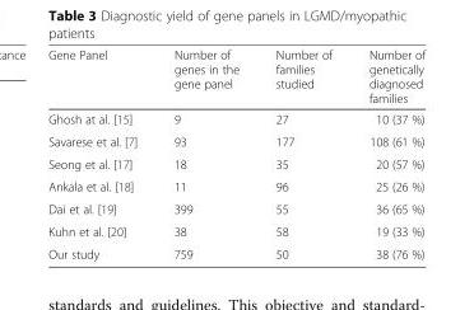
<table><thead><tr><td>Gene Panel</td><td>Number of genes in the gene panel</td><td>Number of families studied</td><td>Number of genetically diagnosed families</td></tr></thead><tbody><tr><td>Ghosh at al. [15]</td><td>9</td><td>27</td><td>10 (37 %)</td></tr><tr><td>Savarese et al. [7]</td><td>93</td><td>177</td><td>108 (61 %)</td></tr><tr><td>Seong et al. [17]</td><td>18</td><td>35</td><td>20 (57 %)</td></tr><tr><td>Ankala et al. [18]</td><td>11</td><td>96</td><td>25 (26 %)</td></tr><tr><td>Dai et al. [19]</td><td>399</td><td>55</td><td>36 (65 %)</td></tr><tr><td>Kuhn et al. [20]</td><td>38</td><td>58</td><td>19 (33 %)</td></tr><tr><td>Our study</td><td>759</td><td>50</td><td>38 (76 %)</td></tr></tbody></table>